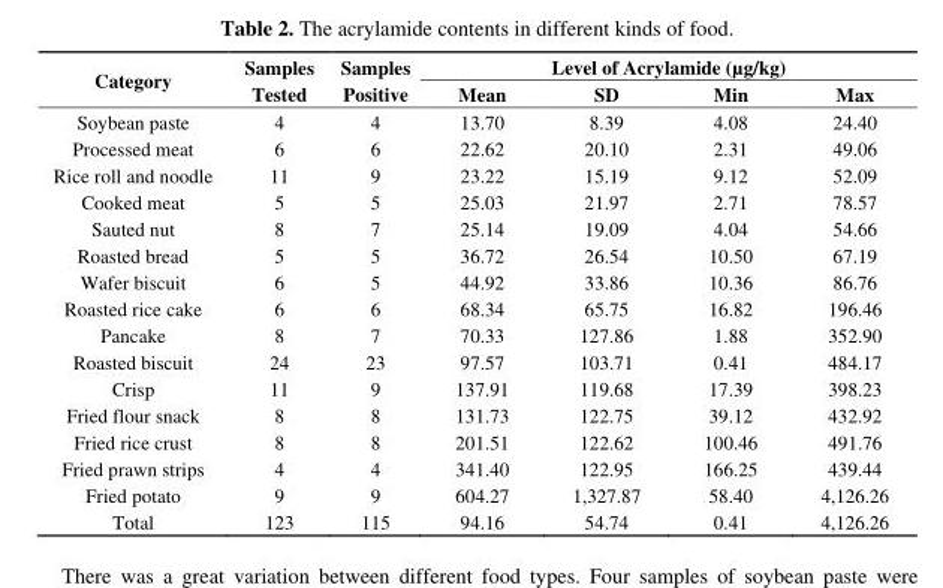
<table><thead><tr><td rowspan="2">Category</td><td rowspan="2">Samples Tested</td><td rowspan="2">Samples Positive</td><td colspan="4">Level of Acrylamide (µg/kg)</td></tr><tr><td>Mean</td><td>SD</td><td>Min</td><td>Max</td></tr></thead><tbody><tr><td>Soybean paste</td><td>4</td><td>4</td><td>13.70</td><td>8.39</td><td>4.08</td><td>24.40</td></tr><tr><td>Processed meat</td><td>6</td><td>6</td><td>22.62</td><td>20.10</td><td>2.31</td><td>49.06</td></tr><tr><td>Rice roll and noodle</td><td>11</td><td>9</td><td>23.22</td><td>15.19</td><td>9.12</td><td>52.09</td></tr><tr><td>Cooked meat</td><td>5</td><td>5</td><td>25.03</td><td>21.97</td><td>2.71</td><td>78.57</td></tr><tr><td>Sauted nut</td><td>8</td><td>7</td><td>25.14</td><td>19.09</td><td>4.04</td><td>54.66</td></tr><tr><td>Roasted bread</td><td>5</td><td>5</td><td>36.72</td><td>26.54</td><td>10.50</td><td>67.19</td></tr><tr><td>Wafer biscuit</td><td>6</td><td>5</td><td>44.92</td><td>33.86</td><td>10.36</td><td>86.76</td></tr><tr><td>Roasted rice cake</td><td>6</td><td>6</td><td>68.34</td><td>65.75</td><td>16.82</td><td>196.46</td></tr><tr><td>Pancake</td><td>8</td><td>7</td><td>70.33</td><td>127.86</td><td>1.88</td><td>352.90</td></tr><tr><td>Roasted biscuit</td><td>24</td><td>23</td><td>97.57</td><td>103.71</td><td>0.41</td><td>484.17</td></tr><tr><td>Crisp</td><td>11</td><td>9</td><td>137.91</td><td>119.68</td><td>17.39</td><td>398.23</td></tr><tr><td>Fried flour snack</td><td>8</td><td>8</td><td>131.73</td><td>122.75</td><td>39.12</td><td>432.92</td></tr><tr><td>Fried rice crust</td><td>8</td><td>8</td><td>201.51</td><td>122.62</td><td>100.46</td><td>491.76</td></tr><tr><td>Fried prawn strips</td><td>4</td><td>4</td><td>341.40</td><td>122.95</td><td>166.25</td><td>439.44</td></tr><tr><td>Fried potato</td><td>9</td><td>9</td><td>604.27</td><td>1,327.87</td><td>58.40</td><td>4,126.26</td></tr><tr><td>Total</td><td>123</td><td>115</td><td>94.16</td><td>54.74</td><td>0.41</td><td>4,126.26</td></tr></tbody></table>